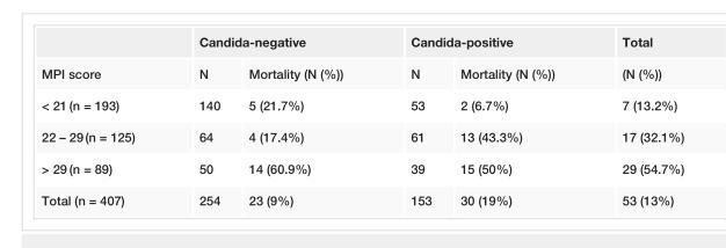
<table><thead><tr><td rowspan="2">MPI score</td><td colspan="2">Candida-negative</td><td colspan="2">Candida-positive</td><td rowspan="2">Total (N (%))</td></tr><tr><td>N</td><td>Mortality (N (%))</td><td>N</td><td>Mortality (N (%))</td></tr></thead><tbody><tr><td>&lt; 21 (n = 193)</td><td>140</td><td>5 (21.7%)</td><td>53</td><td>2 (6.7%)</td><td>7 (13.2%)</td></tr><tr><td>22 – 29 (n = 125)</td><td>64</td><td>4 (17.4%)</td><td>61</td><td>13 (43.3%)</td><td>17 (32.1%)</td></tr><tr><td>&gt; 29 (n = 89)</td><td>50</td><td>14 (60.9%)</td><td>39</td><td>15 (50%)</td><td>29 (54.7%)</td></tr><tr><td>Total (n = 407)</td><td>254</td><td>23 (9%)</td><td>153</td><td>30 (19%)</td><td>53 (13%)</td></tr></tbody></table>